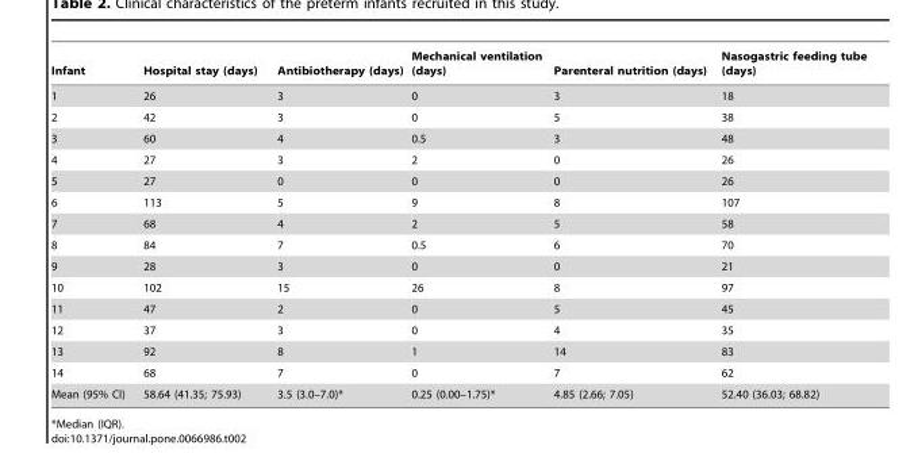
<table><thead><tr><td>Infant</td><td>Hospital stay (days)</td><td>Antibiotherapy (days)</td><td>Mechanical ventilation (days)</td><td>Parenteral nutrition (days)</td><td>Nasogastric feeding tube (days)</td></tr></thead><tbody><tr><td>1</td><td>26</td><td>3</td><td>0</td><td>3</td><td>18</td></tr><tr><td>2</td><td>42</td><td>3</td><td>0</td><td>5</td><td>38</td></tr><tr><td>3</td><td>60</td><td>4</td><td>0.5</td><td>3</td><td>48</td></tr><tr><td>4</td><td>27</td><td>3</td><td>2</td><td>0</td><td>26</td></tr><tr><td>5</td><td>27</td><td>0</td><td>0</td><td>0</td><td>26</td></tr><tr><td>6</td><td>113</td><td>5</td><td>9</td><td>8</td><td>107</td></tr><tr><td>7</td><td>68</td><td>4</td><td>2</td><td>5</td><td>58</td></tr><tr><td>8</td><td>84</td><td>7</td><td>0.5</td><td>6</td><td>70</td></tr><tr><td>9</td><td>28</td><td>3</td><td>0</td><td>0</td><td>21</td></tr><tr><td>10</td><td>102</td><td>15</td><td>26</td><td>8</td><td>97</td></tr><tr><td>11</td><td>47</td><td>2</td><td>0</td><td>5</td><td>45</td></tr><tr><td>12</td><td>37</td><td>3</td><td>0</td><td>4</td><td>35</td></tr><tr><td>13</td><td>92</td><td>8</td><td>1</td><td>14</td><td>83</td></tr><tr><td>14</td><td>68</td><td>7</td><td>0</td><td>7</td><td>62</td></tr><tr><td>Mean (95% CI)</td><td>58.64 (41.35; 75.93)</td><td>3.5 (3.0–7.0)*</td><td>0.25 (0.00–1.75)*</td><td>4.85 (2.66; 7.05)</td><td>52.40 (36.03; 68.82)</td></tr></tbody></table>